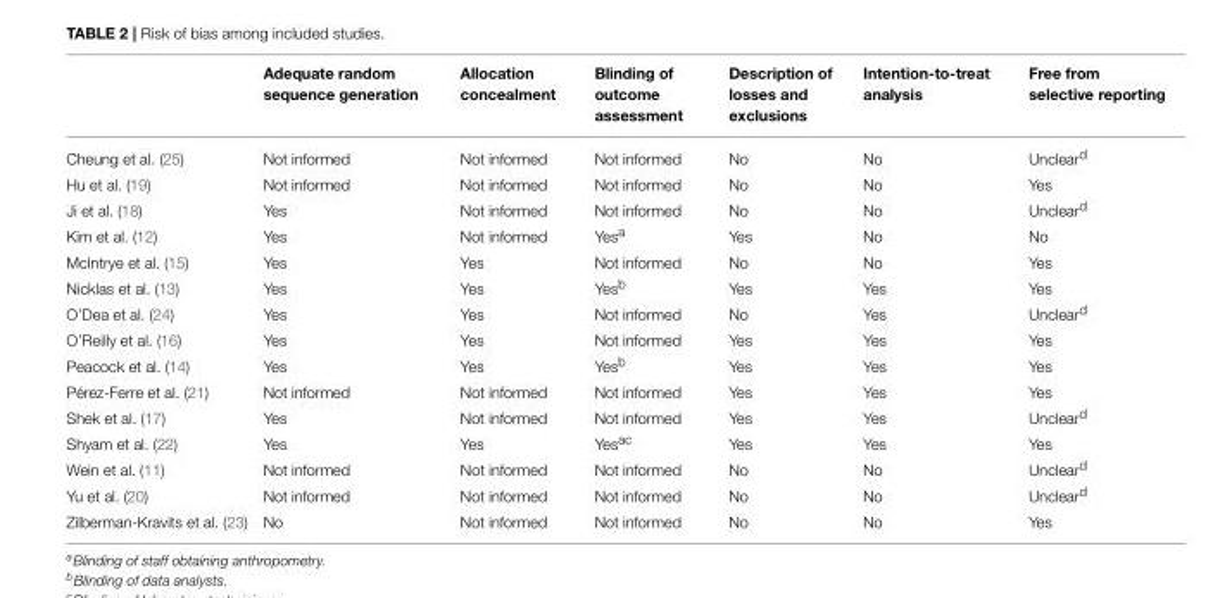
<table><thead><tr><td></td><td>Adequate random sequence generation</td><td>Allocation concealment</td><td>Blinding of outcome assessment</td><td>Description of losses and exclusions</td><td>Intention-to-treat analysis</td><td>Free from selective reporting</td></tr></thead><tbody><tr><td>Cheung et al. (25)</td><td>Not informed</td><td>Not informed</td><td>Not informed</td><td>No</td><td>No</td><td>Unclear<sup>d</sup></td></tr><tr><td>Hu et al. (19)</td><td>Not informed</td><td>Not informed</td><td>Not informed</td><td>No</td><td>No</td><td>Yes</td></tr><tr><td>Ji et al. (18)</td><td>Yes</td><td>Not informed</td><td>Not informed</td><td>No</td><td>No</td><td>Unclear<sup>d</sup></td></tr><tr><td>Kim et al. (12)</td><td>Yes</td><td>Not informed</td><td>Yes<sup>a</sup></td><td>Yes</td><td>No</td><td>No</td></tr><tr><td>McIntrye et al. (15)</td><td>Yes</td><td>Yes</td><td>Not informed</td><td>No</td><td>No</td><td>Yes</td></tr><tr><td>Nicklas et al. (13)</td><td>Yes</td><td>Yes</td><td>Yes<sup>b</sup></td><td>Yes</td><td>Yes</td><td>Yes</td></tr><tr><td>O’Dea et al. (24)</td><td>Yes</td><td>Yes</td><td>Not informed</td><td>No</td><td>Yes</td><td>Unclear<sup>d</sup></td></tr><tr><td>O’Reilly et al. (16)</td><td>Yes</td><td>Yes</td><td>Not informed</td><td>Yes</td><td>Yes</td><td>Yes</td></tr><tr><td>Peacock et al. (14)</td><td>Yes</td><td>Yes</td><td>Yes<sup>b</sup></td><td>Yes</td><td>Yes</td><td>Yes</td></tr><tr><td>Pérez-Ferre et al. (21)</td><td>Not informed</td><td>Not informed</td><td>Not informed</td><td>Yes</td><td>Yes</td><td>Yes</td></tr><tr><td>Shek et al. (17)</td><td>Yes</td><td>Not informed</td><td>Not informed</td><td>Yes</td><td>Yes</td><td>Unclear<sup>d</sup></td></tr><tr><td>Shyam et al. (22)</td><td>Yes</td><td>Yes</td><td>Yes<sup>ac</sup></td><td>Yes</td><td>Yes</td><td>Yes</td></tr><tr><td>Wein et al. (11)</td><td>Not informed</td><td>Not informed</td><td>Not informed</td><td>No</td><td>No</td><td>Unclear<sup>d</sup></td></tr><tr><td>Yu et al. (20)</td><td>Not informed</td><td>Not informed</td><td>Not informed</td><td>No</td><td>No</td><td>Unclear<sup>d</sup></td></tr><tr><td>Zilberman-Kravits et al. (23)</td><td>No</td><td>Not informed</td><td>Not informed</td><td>No</td><td>No</td><td>Yes</td></tr></tbody></table>